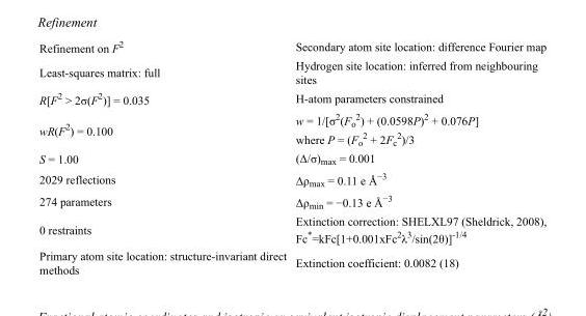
<table><tbody><tr><td>Refinement on F<sup>2</sup></td><td>Secondary atom site location: difference Fourier map</td></tr><tr><td>Least-squares matrix: full</td><td>Hydrogen site location: inferred from neighbouring sites</td></tr><tr><td>R[F<sup>2</sup> &gt; 2σ(F<sup>2</sup>)] = 0.035</td><td>H-atom parameters constrained</td></tr><tr><td>wR(F<sup>2</sup>) = 0.100</td><td>w = 1/[σ<sup>2</sup>(F<sub>o</sub> <sup>2</sup>) + (0.0598P)<sup>2</sup> + 0.076P] where P = (F<sub>o</sub> <sup>2</sup> + 2F<sub>c</sub> <sup>2</sup>)/3</td></tr><tr><td>S = 1.00</td><td>(Δ/σ)<sub>max</sub> = 0.001</td></tr><tr><td>2029 reflections</td><td>Δρ<sub>max</sub> = 0.11 e Å<sup>−3</sup></td></tr><tr><td>274 parameters</td><td>Δρ<sub>min</sub> = −0.13 e Å<sup>−3</sup></td></tr><tr><td>0 restraints</td><td>Extinction correction: SHELXL97 (Sheldrick, 2008), Fc*=kFc[1+0.001xFc<sup>2</sup>λ<sup>3</sup>/sin(2θ)]<sup>-1/4</sup></td></tr><tr><td>Primary atom site location: structure-invariant direct methods</td><td>Extinction coefficient: 0.0082 (18)</td></tr></tbody></table>